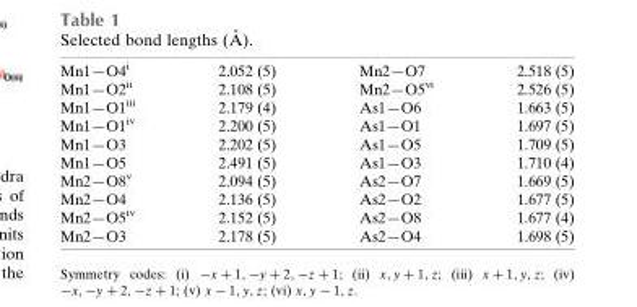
<table><tbody><tr><td>Mn1—O4<sup>i</sup></td><td>2.052 (5)</td><td>Mn2—O7</td><td>2.518 (5)</td></tr><tr><td>Mn1—O2<sup>ii</sup></td><td>2.108 (5)</td><td>Mn2—O5<sup>vi</sup></td><td>2.526 (5)</td></tr><tr><td>Mn1—O1<sup>iii</sup></td><td>2.179 (4)</td><td>As1—O6</td><td>1.663 (5)</td></tr><tr><td>Mn1—O1<sup>iv</sup></td><td>2.200 (5)</td><td>As1—O1</td><td>1.697 (5)</td></tr><tr><td>Mn1—O3</td><td>2.202 (5)</td><td>As1—O5</td><td>1.709 (5)</td></tr><tr><td>Mn1—O5</td><td>2.491 (5)</td><td>As1—O3</td><td>1.710 (4)</td></tr><tr><td>Mn2—O8<sup>v</sup></td><td>2.094 (5)</td><td>As2—O7</td><td>1.669 (5)</td></tr><tr><td>Mn2—O4</td><td>2.136 (5)</td><td>As2—O2</td><td>1.677 (5)</td></tr><tr><td>Mn2—O5<sup>iv</sup></td><td>2.152 (5)</td><td>As2—O8</td><td>1.677 (4)</td></tr><tr><td>Mn2—O3</td><td>2.178 (5)</td><td>As2—O4</td><td>1.698 (5)</td></tr></tbody></table>